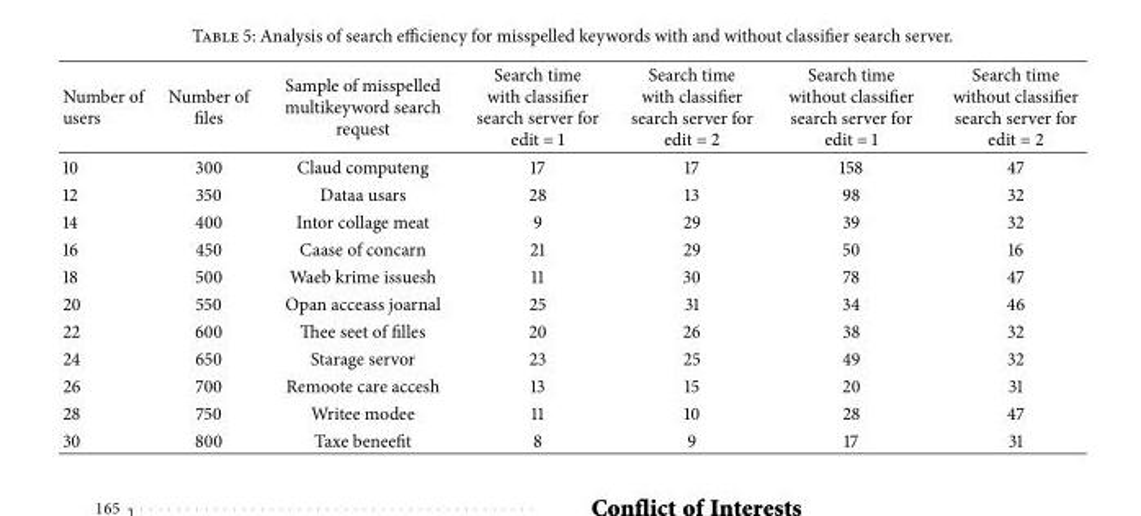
<table><thead><tr><td>Number of users</td><td>Number of files</td><td>Sample of misspelled multikeyword search request</td><td>Search time with classifier search server for edit = 1</td><td>Search time with classifier search server for edit = 2</td><td>Search time without classifier search server for edit = 1</td><td>Search time without classifier search server for edit = 2</td></tr></thead><tbody><tr><td>10</td><td>300</td><td>Claud computeng</td><td>17</td><td>17</td><td>158</td><td>47</td></tr><tr><td>12</td><td>350</td><td>Dataa usars</td><td>28</td><td>13</td><td>98</td><td>32</td></tr><tr><td>14</td><td>400</td><td>Intor collage meat</td><td>9</td><td>29</td><td>39</td><td>32</td></tr><tr><td>16</td><td>450</td><td>Caase of concarn</td><td>21</td><td>29</td><td>50</td><td>16</td></tr><tr><td>18</td><td>500</td><td>Waeb krime issuesh</td><td>11</td><td>30</td><td>78</td><td>47</td></tr><tr><td>20</td><td>550</td><td>Opan acceass joarnal</td><td>25</td><td>31</td><td>34</td><td>46</td></tr><tr><td>22</td><td>600</td><td>Thee seet of filles</td><td>20</td><td>26</td><td>38</td><td>32</td></tr><tr><td>24</td><td>650</td><td>Starage servor</td><td>23</td><td>25</td><td>49</td><td>32</td></tr><tr><td>26</td><td>700</td><td>Remoote care accesh</td><td>13</td><td>15</td><td>20</td><td>31</td></tr><tr><td>28</td><td>750</td><td>Writee modee</td><td>11</td><td>10</td><td>28</td><td>47</td></tr><tr><td>30</td><td>800</td><td>Taxe beneefit</td><td>8</td><td>9</td><td>17</td><td>31</td></tr></tbody></table>